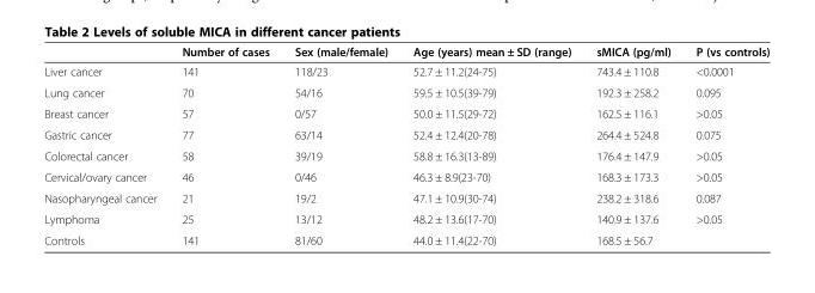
<table><thead><tr><td></td><td>Number of cases</td><td>Sex (male/female)</td><td>Age (years) mean ± SD (range)</td><td>sMICA (pg/ml)</td><td>P (vs controls)</td></tr></thead><tbody><tr><td>Liver cancer</td><td>141</td><td>118/23</td><td>52.7 ± 11.2(24-75)</td><td>743.4 ± 110.8</td><td>&lt;0.0001</td></tr><tr><td>Lung cancer</td><td>70</td><td>54/16</td><td>59.5 ± 10.5(39-79)</td><td>192.3 ± 258.2</td><td>0.095</td></tr><tr><td>Breast cancer</td><td>57</td><td>0/57</td><td>50.0 ± 11.5(29-72)</td><td>162.5 ± 116.1</td><td>&gt;0.05</td></tr><tr><td>Gastric cancer</td><td>77</td><td>63/14</td><td>52.4 ± 12.4(20-78)</td><td>264.4 ± 524.8</td><td>0.075</td></tr><tr><td>Colorectal cancer</td><td>58</td><td>39/19</td><td>58.8 ± 16.3(13-89)</td><td>176.4 ± 147.9</td><td>&gt;0.05</td></tr><tr><td>Cervical/ovary cancer</td><td>46</td><td>0/46</td><td>46.3 ± 8.9(23-70)</td><td>168.3 ± 173.3</td><td>&gt;0.05</td></tr><tr><td>Nasopharyngeal cancer</td><td>21</td><td>19/2</td><td>47.1 ± 10.9(30-74)</td><td>238.2 ± 318.6</td><td>0.087</td></tr><tr><td>Lymphoma</td><td>25</td><td>13/12</td><td>48.2 ± 13.6(17-70)</td><td>140.9 ± 137.6</td><td>&gt;0.05</td></tr><tr><td>Controls</td><td>141</td><td>81/60</td><td>44.0 ± 11.4(22-70)</td><td>168.5 ± 56.7</td><td></td></tr></tbody></table>